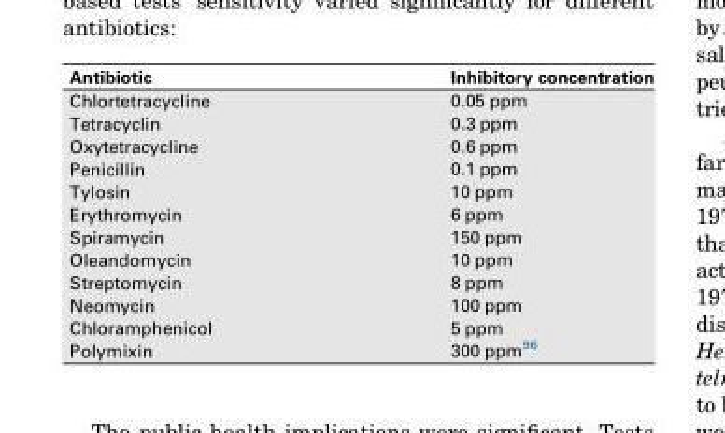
<table><thead><tr><td>Antibiotic</td><td>Inhibitory concentration</td></tr></thead><tbody><tr><td>Chlortetracycline</td><td>0.05 ppm</td></tr><tr><td>Tetracyclin</td><td>0.3 ppm</td></tr><tr><td>Oxytetracycline</td><td>0.6 ppm</td></tr><tr><td>Penicillin</td><td>0.1 ppm</td></tr><tr><td>Tylosin</td><td>10 ppm</td></tr><tr><td>Erythromycin</td><td>6 ppm</td></tr><tr><td>Spiramycin</td><td>150 ppm</td></tr><tr><td>Oleandomycin</td><td>10 ppm</td></tr><tr><td>Streptomycin</td><td>8 ppm</td></tr><tr><td>Neomycin</td><td>100 ppm</td></tr><tr><td>Chloramphenicol</td><td>5 ppm</td></tr><tr><td>Polymixin</td><td>300 ppm<sup>96</sup></td></tr></tbody></table>